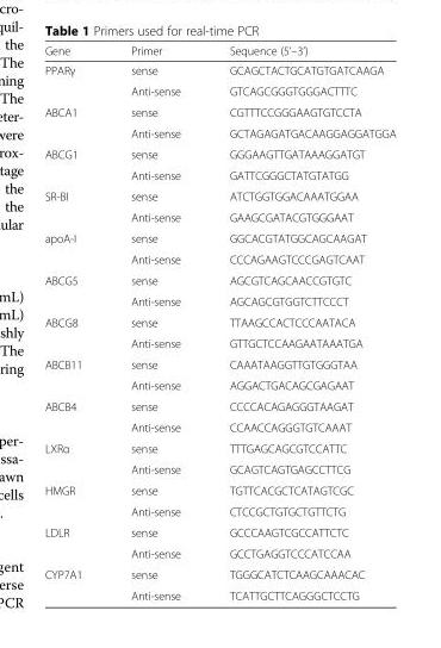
<table><thead><tr><td>Gene</td><td>Primer</td><td>Sequence (5’–3’)</td></tr></thead><tbody><tr><td rowspan="2">PPARγ</td><td>sense</td><td>GCAGCTACTGCATGTGATCAAGA</td></tr><tr><td>Anti-sense</td><td>GTCAGCGGGTGGGACTTTC</td></tr><tr><td rowspan="2">ABCA1</td><td>sense</td><td>CGTTTCCGGGAAGTGTCCTA</td></tr><tr><td>Anti-sense</td><td>GCTAGAGATGACAAGGAGGATGGA</td></tr><tr><td rowspan="2">ABCG1</td><td>sense</td><td>GGGAAGTTGATAAAGGATGT</td></tr><tr><td>Anti-sense</td><td>GATTCGGGCTATGTATGG</td></tr><tr><td rowspan="2">SR-BI</td><td>sense</td><td>ATCTGGTGGACAAATGGAA</td></tr><tr><td>Anti-sense</td><td>GAAGCGATACGTGGGAAT</td></tr><tr><td rowspan="2">apoA-I</td><td>sense</td><td>GGCACGTATGGCAGCAAGAT</td></tr><tr><td>Anti-sense</td><td>CCCAGAAGTCCCGAGTCAAT</td></tr><tr><td rowspan="2">ABCG5</td><td>sense</td><td>AGCGTCAGCAACCGTGTC</td></tr><tr><td>Anti-sense</td><td>AGCAGCGTGGTCTTCCCT</td></tr><tr><td rowspan="2">ABCG8</td><td>sense</td><td>TTAAGCCACTCCCAATACA</td></tr><tr><td>Anti-sense</td><td>GTTGCTCCAAGAATAAATGA</td></tr><tr><td rowspan="2">ABCB11</td><td>sense</td><td>CAAATAAGGTTGTGGGTAA</td></tr><tr><td>Anti-sense</td><td>AGGACTGACAGCGAGAAT</td></tr><tr><td rowspan="2">ABCB4</td><td>sense</td><td>CCCCACAGAGGGTAAGAT</td></tr><tr><td>Anti-sense</td><td>CCAACCAGGGTGTCAAAT</td></tr><tr><td rowspan="2">LXRα</td><td>sense</td><td>TTTGAGCAGCGTCCATTC</td></tr><tr><td>Anti-sense</td><td>GCAGTCAGTGAGCCTTCG</td></tr><tr><td rowspan="2">HMGR</td><td>sense</td><td>TGTTCACGCTCATAGTCGC</td></tr><tr><td>Anti-sense</td><td>CTCCGCTGTGCTGTTCTG</td></tr><tr><td rowspan="2">LDLR</td><td>sense</td><td>GCCCAAGTCGCCATTCTC</td></tr><tr><td>Anti-sense</td><td>GCCTGAGGTCCCATCCAA</td></tr><tr><td rowspan="2">CYP7A1</td><td>sense</td><td>TGGGCATCTCAAGCAAACAC</td></tr><tr><td>Anti-sense</td><td>TCATTGCTTCAGGGCTCCTG</td></tr></tbody></table>